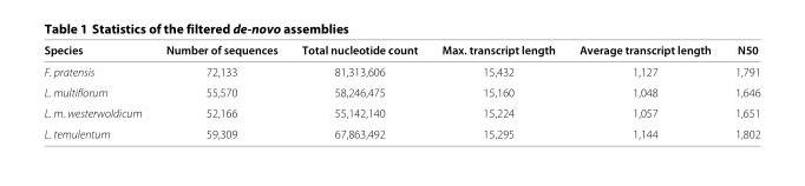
<table><thead><tr><td>Species</td><td>Number of sequences</td><td>Total nucleotide count</td><td>Max. transcript length</td><td>Average transcript length</td><td>N50</td></tr></thead><tbody><tr><td>F. pratensis</td><td>72,133</td><td>81,313,606</td><td>15,432</td><td>1,127</td><td>1,791</td></tr><tr><td>L. multiflorum</td><td>55,570</td><td>58,246,475</td><td>15,160</td><td>1,048</td><td>1,646</td></tr><tr><td>L. m. westerwoldicum</td><td>52,166</td><td>55,142,140</td><td>15,224</td><td>1,057</td><td>1,651</td></tr><tr><td>L. temulentum</td><td>59,309</td><td>67,863,492</td><td>15,295</td><td>1,144</td><td>1,802</td></tr></tbody></table>